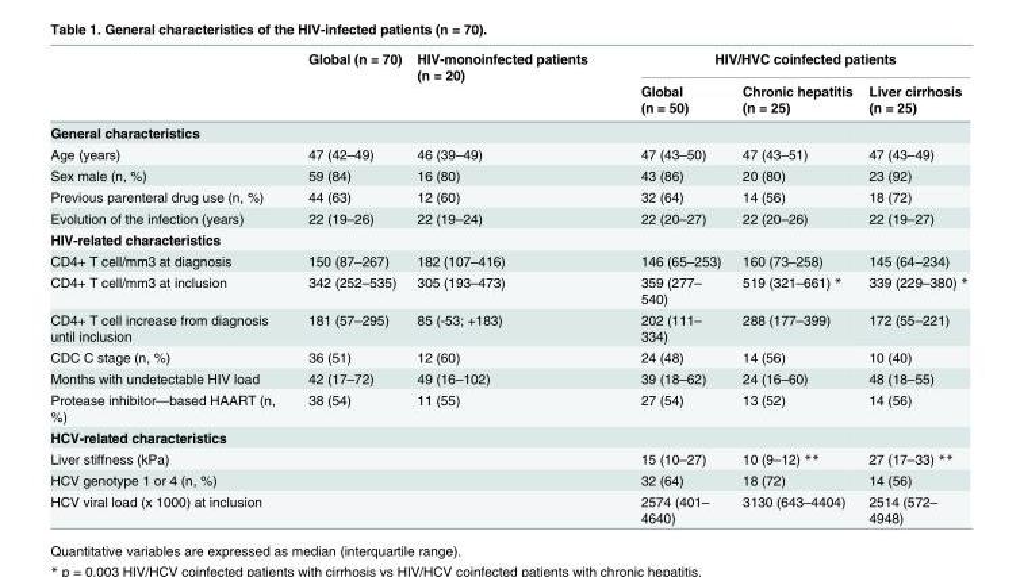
<table><thead><tr><td rowspan="2"></td><td rowspan="2">Global (n = 70)</td><td rowspan="2">HIV-monoinfected patients (n = 20)</td><td colspan="3">HIV/HVC coinfected patients</td></tr><tr><td>Global (n = 50)</td><td>Chronic hepatitis (n = 25)</td><td>Liver cirrhosis (n = 25)</td></tr></thead><tbody><tr><td colspan="6">General characteristics</td></tr><tr><td>Age (years)</td><td>47 (42–49)</td><td>46 (39–49)</td><td>47 (43–50)</td><td>47 (43–51)</td><td>47 (43–49)</td></tr><tr><td>Sex male (n, %)</td><td>59 (84)</td><td>16 (80)</td><td>43 (86)</td><td>20 (80)</td><td>23 (92)</td></tr><tr><td>Previous parenteral drug use (n, %)</td><td>44 (63)</td><td>12 (60)</td><td>32 (64)</td><td>14 (56)</td><td>18 (72)</td></tr><tr><td>Evolution of the infection (years)</td><td>22 (19–26)</td><td>22 (19–24)</td><td>22 (20–27)</td><td>22 (20–26)</td><td>22 (19–27)</td></tr><tr><td colspan="6">HIV-related characteristics</td></tr><tr><td>CD4+ T cell/mm3 at diagnosis</td><td>150 (87–267)</td><td>182 (107–416)</td><td>146 (65–253)</td><td>160 (73–258)</td><td>145 (64–234)</td></tr><tr><td>CD4+ T cell/mm3 at inclusion</td><td>342 (252–535)</td><td>305 (193–473)</td><td>359 (277– 540)</td><td>519 (321–661) *</td><td>339 (229–380) *</td></tr><tr><td>CD4+ T cell increase from diagnosis until inclusion</td><td>181 (57–295)</td><td>85 (-53; +183)</td><td>202 (111– 334)</td><td>288 (177–399)</td><td>172 (55–221)</td></tr><tr><td>CDC C stage (n, %)</td><td>36 (51)</td><td>12 (60)</td><td>24 (48)</td><td>14 (56)</td><td>10 (40)</td></tr><tr><td>Months with undetectable HIV load</td><td>42 (17–72)</td><td>49 (16–102)</td><td>39 (18–62)</td><td>24 (16–60)</td><td>48 (18–55)</td></tr><tr><td>Protease inhibitor—based HAART (n, %)</td><td>38 (54)</td><td>11 (55)</td><td>27 (54)</td><td>13 (52)</td><td>14 (56)</td></tr><tr><td colspan="6">HCV-related characteristics</td></tr><tr><td>Liver stiffness (kPa)</td><td></td><td></td><td>15 (10–27)</td><td>10 (9–12) **</td><td>27 (17–33) **</td></tr><tr><td>HCV genotype 1 or 4 (n, %)</td><td></td><td></td><td>32 (64)</td><td>18 (72)</td><td>14 (56)</td></tr><tr><td>HCV viral load (x 1000) at inclusion</td><td></td><td></td><td>2574 (401– 4640)</td><td>3130 (643–4404)</td><td>2514 (572– 4948)</td></tr></tbody></table>